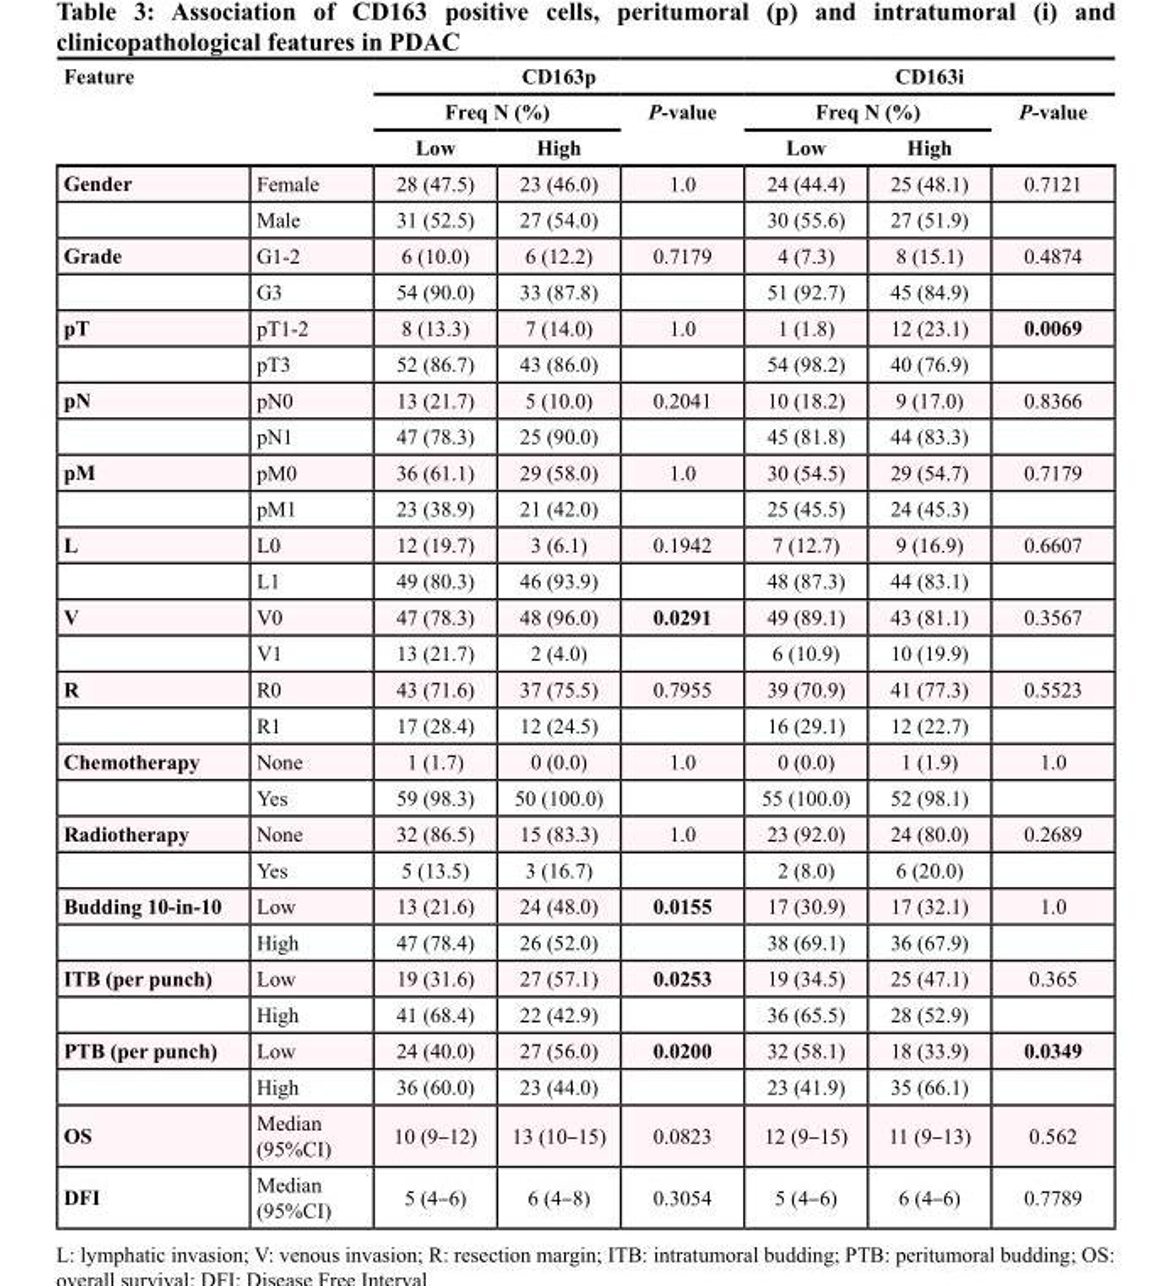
<table><thead><tr><td rowspan="3">Feature</td><td rowspan="3"></td><td colspan="3">CD163p</td><td colspan="3">CD163i</td></tr><tr><td colspan="2">Freq N (%)</td><td rowspan="2">P-value</td><td colspan="2">Freq N (%)</td><td rowspan="2">P-value</td></tr><tr><td>Low</td><td>High</td><td>Low</td><td>High</td></tr></thead><tbody><tr><td rowspan="2">Gender</td><td>Female</td><td>28 (47.5)</td><td>23 (46.0)</td><td>1.0</td><td>24 (44.4)</td><td>25 (48.1)</td><td>0.7121</td></tr><tr><td>Male</td><td>31 (52.5)</td><td>27 (54.0)</td><td></td><td>30 (55.6)</td><td>27 (51.9)</td><td></td></tr><tr><td rowspan="2">Grade</td><td>G1-2</td><td>6 (10.0)</td><td>6 (12.2)</td><td>0.7179</td><td>4 (7.3)</td><td>8 (15.1)</td><td>0.4874</td></tr><tr><td>G3</td><td>54 (90.0)</td><td>33 (87.8)</td><td></td><td>51 (92.7)</td><td>45 (84.9)</td><td></td></tr><tr><td rowspan="2">pT</td><td>pT1-2</td><td>8 (13.3)</td><td>7 (14.0)</td><td>1.0</td><td>1 (1.8)</td><td>12 (23.1)</td><td>0.0069</td></tr><tr><td>pT3</td><td>52 (86.7)</td><td>43 (86.0)</td><td></td><td>54 (98.2)</td><td>40 (76.9)</td><td></td></tr><tr><td rowspan="2">pN</td><td>pN0</td><td>13 (21.7)</td><td>5 (10.0)</td><td>0.2041</td><td>10 (18.2)</td><td>9 (17.0)</td><td>0.8366</td></tr><tr><td>pN1</td><td>47 (78.3)</td><td>25 (90.0)</td><td></td><td>45 (81.8)</td><td>44 (83.3)</td><td></td></tr><tr><td rowspan="2">pM</td><td>pM0</td><td>36 (61.1)</td><td>29 (58.0)</td><td>1.0</td><td>30 (54.5)</td><td>29 (54.7)</td><td>0.7179</td></tr><tr><td>pM1</td><td>23 (38.9)</td><td>21 (42.0)</td><td></td><td>25 (45.5)</td><td>24 (45.3)</td><td></td></tr><tr><td rowspan="2">L</td><td>L0</td><td>12 (19.7)</td><td>3 (6.1)</td><td>0.1942</td><td>7 (12.7)</td><td>9 (16.9)</td><td>0.6607</td></tr><tr><td>L1</td><td>49 (80.3)</td><td>46 (93.9)</td><td></td><td>48 (87.3)</td><td>44 (83.1)</td><td></td></tr><tr><td rowspan="2">V</td><td>V0</td><td>47 (78.3)</td><td>48 (96.0)</td><td>0.0291</td><td>49 (89.1)</td><td>43 (81.1)</td><td>0.3567</td></tr><tr><td>V1</td><td>13 (21.7)</td><td>2 (4.0)</td><td></td><td>6 (10.9)</td><td>10 (19.9)</td><td></td></tr><tr><td rowspan="2">R</td><td>R0</td><td>43 (71.6)</td><td>37 (75.5)</td><td>0.7955</td><td>39 (70.9)</td><td>41 (77.3)</td><td>0.5523</td></tr><tr><td>R1</td><td>17 (28.4)</td><td>12 (24.5)</td><td></td><td>16 (29.1)</td><td>12 (22.7)</td><td></td></tr><tr><td rowspan="2">Chemotherapy</td><td>None</td><td>1 (1.7)</td><td>0 (0.0)</td><td>1.0</td><td>0 (0.0)</td><td>1 (1.9)</td><td>1.0</td></tr><tr><td>Yes</td><td>59 (98.3)</td><td>50 (100.0)</td><td></td><td>55 (100.0)</td><td>52 (98.1)</td><td></td></tr><tr><td rowspan="2">Radiotherapy</td><td>None</td><td>32 (86.5)</td><td>15 (83.3)</td><td>1.0</td><td>23 (92.0)</td><td>24 (80.0)</td><td>0.2689</td></tr><tr><td>Yes</td><td>5 (13.5)</td><td>3 (16.7)</td><td></td><td>2 (8.0)</td><td>6 (20.0)</td><td></td></tr><tr><td rowspan="2">Budding 10-in-10</td><td>Low</td><td>13 (21.6)</td><td>24 (48.0)</td><td>0.0155</td><td>17 (30.9)</td><td>17 (32.1)</td><td>1.0</td></tr><tr><td>High</td><td>47 (78.4)</td><td>26 (52.0)</td><td></td><td>38 (69.1)</td><td>36 (67.9)</td><td></td></tr><tr><td rowspan="2">ITB (per punch)</td><td>Low</td><td>19 (31.6)</td><td>27 (57.1)</td><td>0.0253</td><td>19 (34.5)</td><td>25 (47.1)</td><td>0.365</td></tr><tr><td>High</td><td>41 (68.4)</td><td>22 (42.9)</td><td></td><td>36 (65.5)</td><td>28 (52.9)</td><td></td></tr><tr><td rowspan="2">PTB (per punch)</td><td>Low</td><td>24 (40.0)</td><td>27 (56.0)</td><td>0.0200</td><td>32 (58.1)</td><td>18 (33.9)</td><td>0.0349</td></tr><tr><td>High</td><td>36 (60.0)</td><td>23 (44.0)</td><td></td><td>23 (41.9)</td><td>35 (66.1)</td><td></td></tr><tr><td>OS</td><td>Median (95%CI)</td><td>10 (9–12)</td><td>13 (10–15)</td><td>0.0823</td><td>12 (9–15)</td><td>11 (9–13)</td><td>0.562</td></tr><tr><td>DFI</td><td>Median (95%CI)</td><td>5 (4–6)</td><td>6 (4–8)</td><td>0.3054</td><td>5 (4–6)</td><td>6 (4–6)</td><td>0.7789</td></tr></tbody></table>